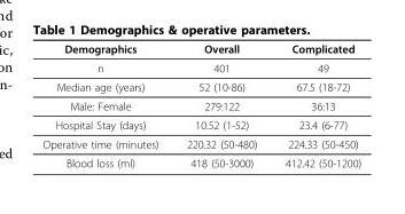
<table><thead><tr><td>Demographics</td><td>Overall</td><td>Complicated</td></tr></thead><tbody><tr><td>n</td><td>401</td><td>49</td></tr><tr><td>Median age (years)</td><td>52 (10-86)</td><td>67.5 (18-72)</td></tr><tr><td>Male: Female</td><td>279:122</td><td>36:13</td></tr><tr><td>Hospital Stay (days)</td><td>10.52 (1-52)</td><td>23.4 (6-77)</td></tr><tr><td>Operative time (minutes)</td><td>220.32 (50-480)</td><td>224.33 (50-450)</td></tr><tr><td>Blood loss (ml)</td><td>418 (50-3000)</td><td>412.42 (50-1200)</td></tr></tbody></table>